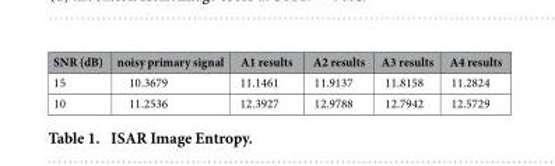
<table><thead><tr><td>SNR (dB)</td><td>noisy primary signal</td><td>A1 results</td><td>A2 results</td><td>A3 results</td><td>A4 results</td></tr></thead><tbody><tr><td>15</td><td>10.3679</td><td>11.1461</td><td>11.9137</td><td>11.8158</td><td>11.2824</td></tr><tr><td>10</td><td>11.2536</td><td>12.3927</td><td>12.9788</td><td>12.7942</td><td>12.5729</td></tr></tbody></table>